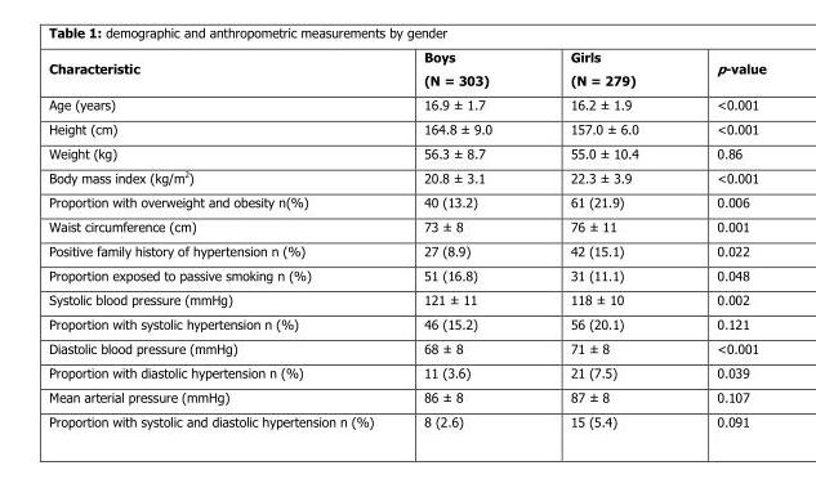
<table><thead><tr><td>Characteristic</td><td>Boys (N = 303)</td><td>Girls (N = 279)</td><td>p-value</td></tr></thead><tbody><tr><td>Age (years)</td><td>16.9 ± 1.7</td><td>16.2 ± 1.9</td><td>&lt;0.001</td></tr><tr><td>Height (cm)</td><td>164.8 ± 9.0</td><td>157.0 ± 6.0</td><td>&lt;0.001</td></tr><tr><td>Weight (kg)</td><td>56.3 ± 8.7</td><td>55.0 ± 10.4</td><td>0.86</td></tr><tr><td>Body mass index (kg/m<sup>2</sup>)</td><td>20.8 ± 3.1</td><td>22.3 ± 3.9</td><td>&lt;0.001</td></tr><tr><td>Proportion with overweight and obesity n(%)</td><td>40 (13.2)</td><td>61 (21.9)</td><td>0.006</td></tr><tr><td>Waist circumference (cm)</td><td>73 ± 8</td><td>76 ± 11</td><td>0.001</td></tr><tr><td>Positive family history of hypertension n (%)</td><td>27 (8.9)</td><td>42 (15.1)</td><td>0.022</td></tr><tr><td>Proportion exposed to passive smoking n (%)</td><td>51 (16.8)</td><td>31 (11.1)</td><td>0.048</td></tr><tr><td>Systolic blood pressure (mmHg)</td><td>121 ± 11</td><td>118 ± 10</td><td>0.002</td></tr><tr><td>Proportion with systolic hypertension n (%)</td><td>46 (15.2)</td><td>56 (20.1)</td><td>0.121</td></tr><tr><td>Diastolic blood pressure (mmHg)</td><td>68 ± 8</td><td>71 ± 8</td><td>&lt;0.001</td></tr><tr><td>Proportion with diastolic hypertension n (%)</td><td>11 (3.6)</td><td>21 (7.5)</td><td>0.039</td></tr><tr><td>Mean arterial pressure (mmHg)</td><td>86 ± 8</td><td>87 ± 8</td><td>0.107</td></tr><tr><td>Proportion with systolic and diastolic hypertension n (%)</td><td>8 (2.6)</td><td>15 (5.4)</td><td>0.091</td></tr></tbody></table>